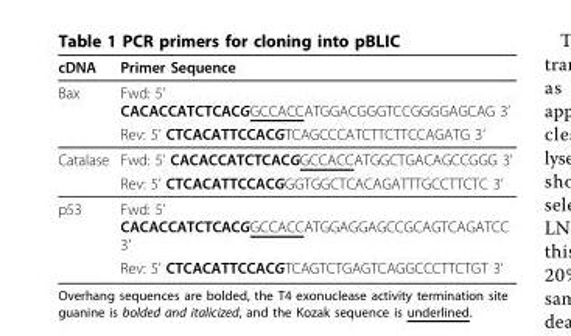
<table><thead><tr><td>cDNA</td><td>Primer Sequence</td></tr></thead><tbody><tr><td rowspan="2">Bax</td><td>Fwd: 5’ CACACCATCTCACGGCCACCATGGACGGGTCCGGGGAGCAG 3’</td></tr><tr><td>Rev: 5’ CTCACATTCCACGTCAGCCCATCTTCTTCCAGATG 3’</td></tr><tr><td rowspan="2">Catalase</td><td>Fwd: 5’ CACACCATCTCACGGCCACCATGGCTGACAGCCGGG 3’</td></tr><tr><td>Rev: 5’ CTCACATTCCACGGGTGGCTCACAGATTTGCCTTCTC 3’</td></tr><tr><td rowspan="2">p53</td><td>Fwd: 5’ CACACCATCTCACGGCCACCATGGAGGAGCCGCAGTCAGATCC 3’</td></tr><tr><td>Rev: 5’ CTCACATTCCACGTCAGTCTGAGTCAGGCCCTTCTGT 3’</td></tr></tbody></table>